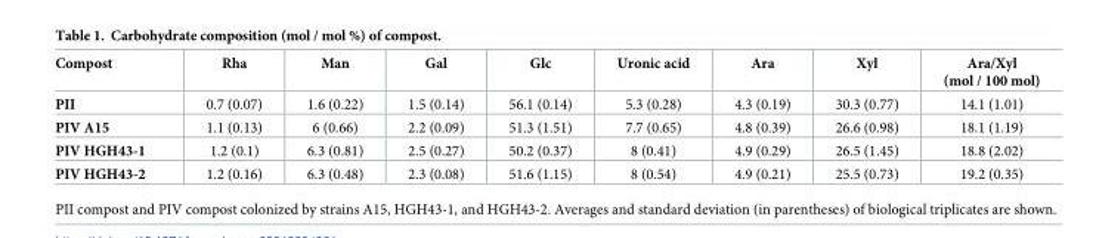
<table><thead><tr><td>Compost</td><td>Rha</td><td>Man</td><td>Gal</td><td>Glc</td><td>Uronic acid</td><td>Ara</td><td>Xyl</td><td>Ara/Xyl (mol / 100 mol)</td></tr></thead><tbody><tr><td>PII</td><td>0.7 (0.07)</td><td>1.6 (0.22)</td><td>1.5 (0.14)</td><td>56.1 (0.14)</td><td>5.3 (0.28)</td><td>4.3 (0.19)</td><td>30.3 (0.77)</td><td>14.1 (1.01)</td></tr><tr><td>PIV A15</td><td>1.1 (0.13)</td><td>6 (0.66)</td><td>2.2 (0.09)</td><td>51.3 (1.51)</td><td>7.7 (0.65)</td><td>4.8 (0.39)</td><td>26.6 (0.98)</td><td>18.1 (1.19)</td></tr><tr><td>PIV HGH43-1</td><td>1.2 (0.1)</td><td>6.3 (0.81)</td><td>2.5 (0.27)</td><td>50.2 (0.37)</td><td>8 (0.41)</td><td>4.9 (0.29)</td><td>26.5 (1.45)</td><td>18.8 (2.02)</td></tr><tr><td>PIV HGH43-2</td><td>1.2 (0.16)</td><td>6.3 (0.48)</td><td>2.3 (0.08)</td><td>51.6 (1.15)</td><td>8 (0.54)</td><td>4.9 (0.21)</td><td>25.5 (0.73)</td><td>19.2 (0.35)</td></tr></tbody></table>